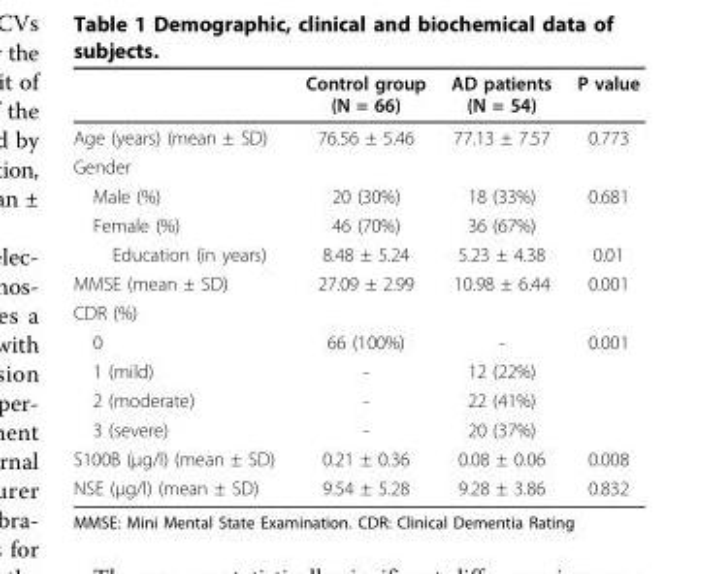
<table><thead><tr><td></td><td>Control group (N = 66)</td><td>AD patients (N = 54)</td><td>P value</td></tr></thead><tbody><tr><td>Age (years) (mean ± SD)</td><td>76.56 ± 5.46</td><td>77.13 ± 7.57</td><td>0.773</td></tr><tr><td colspan="4">Gender</td></tr><tr><td>Male (%)</td><td>20 (30%)</td><td>18 (33%)</td><td>0.681</td></tr><tr><td>Female (%)</td><td>46 (70%)</td><td>36 (67%)</td><td></td></tr><tr><td>Education (in years)</td><td>8.48 ± 5.24</td><td>5.23 ± 4.38</td><td>0.01</td></tr><tr><td>MMSE (mean ± SD)</td><td>27.09 ± 2.99</td><td>10.98 ± 6.44</td><td>0.001</td></tr><tr><td colspan="4">CDR (%)</td></tr><tr><td>0</td><td>66 (100%)</td><td>-</td><td>0.001</td></tr><tr><td>1 (mild)</td><td>-</td><td>12 (22%)</td><td></td></tr><tr><td>2 (moderate)</td><td>-</td><td>22 (41%)</td><td></td></tr><tr><td>3 (severe)</td><td>-</td><td>20 (37%)</td><td></td></tr><tr><td>S100B (μg/l) (mean ± SD)</td><td>0.21 ± 0.36</td><td>0.08 ± 0.06</td><td>0.008</td></tr><tr><td>NSE (μg/l) (mean ± SD)</td><td>9.54 ± 5.28</td><td>9.28 ± 3.86</td><td>0.832</td></tr></tbody></table>